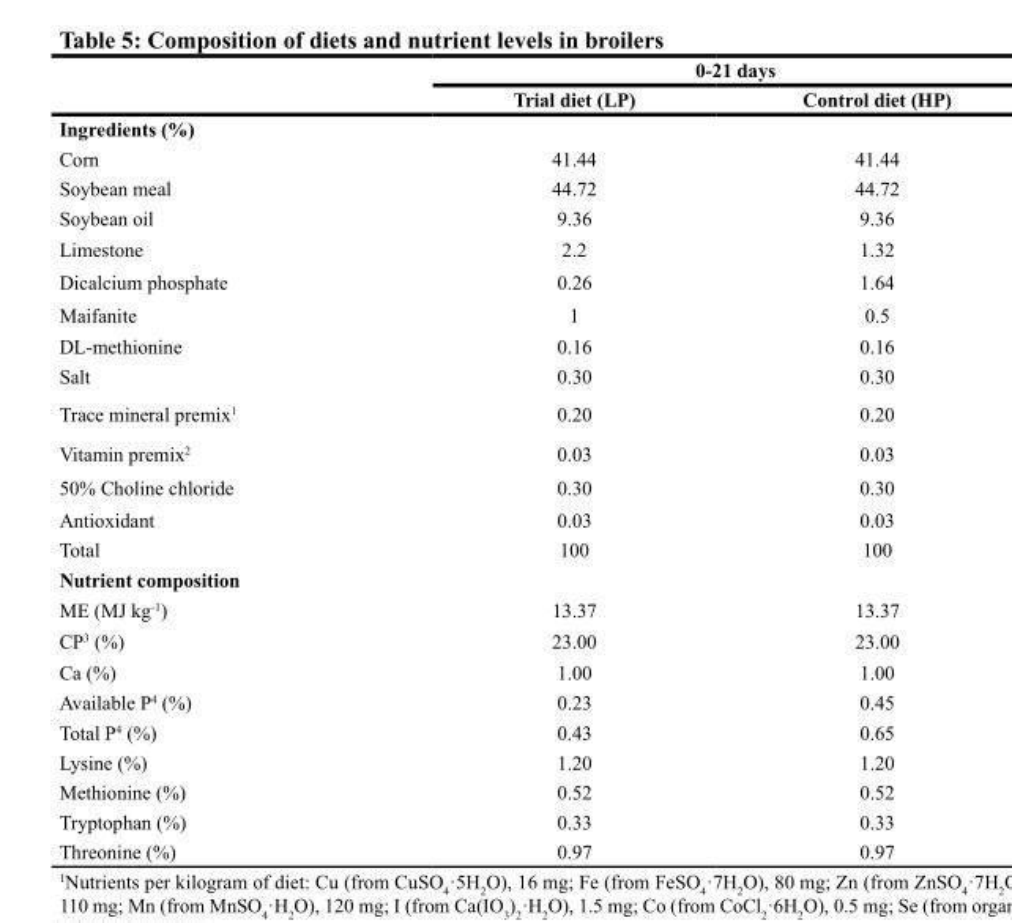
<table><thead><tr><td rowspan="2"></td><td colspan="2">0-21 days</td></tr><tr><td>Trial diet (LP)</td><td>Control diet (HP)</td></tr></thead><tbody><tr><td colspan="3">Ingredients (%)</td></tr><tr><td>Corn</td><td>41.44</td><td>41.44</td></tr><tr><td>Soybean meal</td><td>44.72</td><td>44.72</td></tr><tr><td>Soybean oil</td><td>9.36</td><td>9.36</td></tr><tr><td>Limestone</td><td>2.2</td><td>1.32</td></tr><tr><td>Dicalcium phosphate</td><td>0.26</td><td>1.64</td></tr><tr><td>Maifanite</td><td>1</td><td>0.5</td></tr><tr><td>DL-methionine</td><td>0.16</td><td>0.16</td></tr><tr><td>Salt</td><td>0.30</td><td>0.30</td></tr><tr><td>Trace mineral premix<sup>1</sup></td><td>0.20</td><td>0.20</td></tr><tr><td>Vitamin premix<sup>2</sup></td><td>0.03</td><td>0.03</td></tr><tr><td>50% Choline chloride</td><td>0.30</td><td>0.30</td></tr><tr><td>Antioxidant</td><td>0.03</td><td>0.03</td></tr><tr><td>Total</td><td>100</td><td>100</td></tr><tr><td colspan="3">Nutrient composition</td></tr><tr><td>ME (MJ kg<sup>-1</sup>)</td><td>13.37</td><td>13.37</td></tr><tr><td>CP<sup>3</sup> (%)</td><td>23.00</td><td>23.00</td></tr><tr><td>Ca (%)</td><td>1.00</td><td>1.00</td></tr><tr><td>Available P<sup>4</sup> (%)</td><td>0.23</td><td>0.45</td></tr><tr><td>Total P<sup>4</sup> (%)</td><td>0.43</td><td>0.65</td></tr><tr><td>Lysine (%)</td><td>1.20</td><td>1.20</td></tr><tr><td>Methionine (%)</td><td>0.52</td><td>0.52</td></tr><tr><td>Tryptophan (%)</td><td>0.33</td><td>0.33</td></tr><tr><td>Threonine (%)</td><td>0.97</td><td>0.97</td></tr></tbody></table>